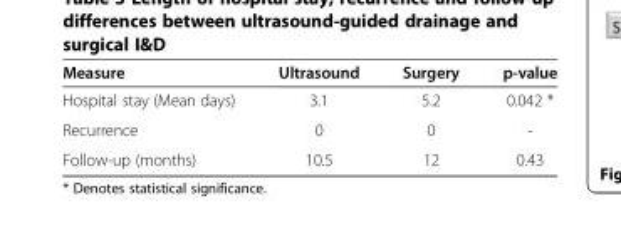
<table><thead><tr><td>Measure</td><td>Ultrasound</td><td>Surgery</td><td>p-value</td></tr></thead><tbody><tr><td>Hospital stay (Mean days)</td><td>3.1</td><td>5.2</td><td>0.042 *</td></tr><tr><td>Recurrence</td><td>0</td><td>0</td><td>-</td></tr><tr><td>Follow-up (months)</td><td>10.5</td><td>12</td><td>0.43</td></tr></tbody></table>